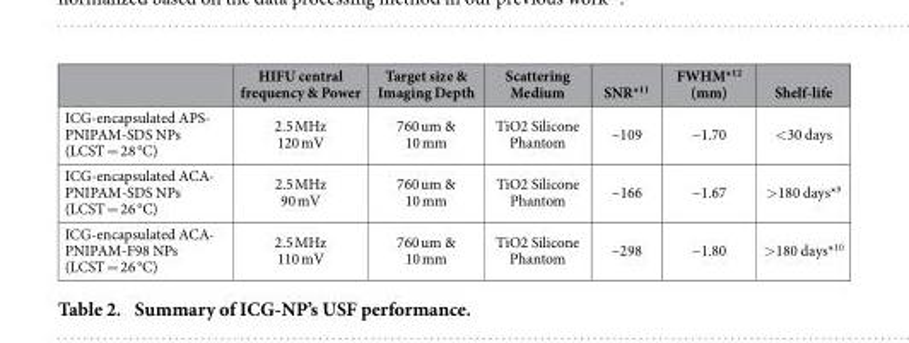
<table><thead><tr><td></td><td>HIFU central frequency &amp; Power</td><td>Target size &amp; Imaging Depth</td><td>Scattering Medium</td><td>SNR*<sup>11</sup></td><td>FWHM*<sup>12</sup> (mm)</td><td>Shelf-life</td></tr></thead><tbody><tr><td>ICG-encapsulated APS- PNIPAM-SDS NPs (LCST = 28 °C)</td><td>2.5 MHz 120 mV</td><td>760 um &amp; 10 mm</td><td>TiO2 Silicone Phantom</td><td>~109</td><td>~1.70</td><td>&lt;30 days</td></tr><tr><td>ICG-encapsulated ACA- PNIPAM-SDS NPs (LCST = 26 °C)</td><td>2.5 MHz 90 mV</td><td>760 um &amp; 10 mm</td><td>TiO2 Silicone Phantom</td><td>~166</td><td>~1.67</td><td>&gt;180 days*<sup>9</sup></td></tr><tr><td>ICG-encapsulated ACA- PNIPAM-F98 NPs (LCST = 26 °C)</td><td>2.5 MHz 110 mV</td><td>760 um &amp; 10 mm</td><td>TiO2 Silicone Phantom</td><td>~298</td><td>~1.80</td><td>&gt;180 days*<sup>10</sup></td></tr></tbody></table>